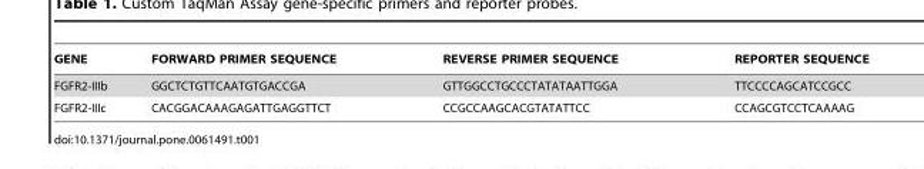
<table><thead><tr><td>GENE</td><td>FORWARD PRIMER SEQUENCE</td><td>REVERSE PRIMER SEQUENCE</td><td>REPORTER SEQUENCE</td></tr></thead><tbody><tr><td>FGFR2-IIIb</td><td>GGCTCTGTTCAATGTGACCGA</td><td>GTTGGCCTGCCCTATATAATTGGA</td><td>TTCCCCAGCATCCGCC</td></tr><tr><td>FGFR2-IIIc</td><td>CACGGACAAAGAGATTGAGGTTCT</td><td>CCGCCAAGCACGTATATTCC</td><td>CCAGCGTCCTCAAAAG</td></tr></tbody></table>